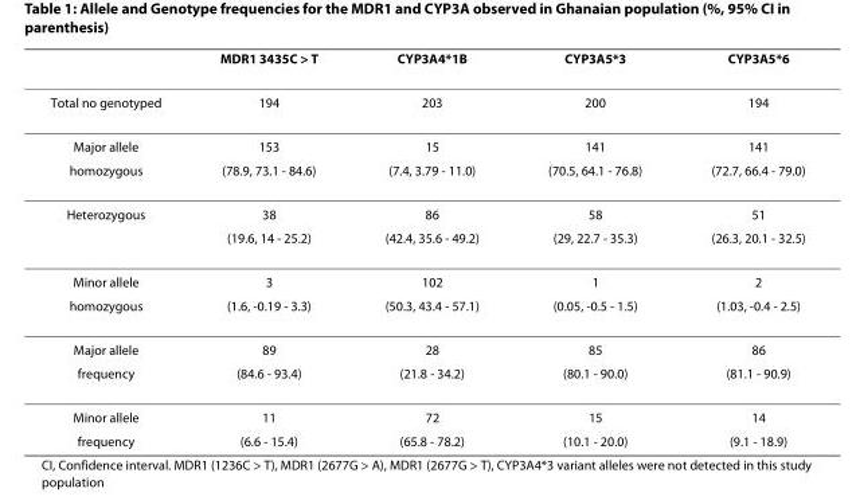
<table><thead><tr><td></td><td>MDR1 3435C &gt; T</td><td>CYP3A4*1B</td><td>CYP3A5*3</td><td>CYP3A5*6</td></tr></thead><tbody><tr><td>Total no genotyped</td><td>194</td><td>203</td><td>200</td><td>194</td></tr><tr><td>Major allele</td><td>153</td><td>15</td><td>141</td><td>141</td></tr><tr><td>homozygous</td><td>(78.9, 73.1 - 84.6)</td><td>(7.4, 3.79 - 11.0)</td><td>(70.5, 64.1 - 76.8)</td><td>(72.7, 66.4 - 79.0)</td></tr><tr><td rowspan="2">Heterozygous</td><td>38</td><td>86</td><td>58</td><td>51</td></tr><tr><td>(19.6, 14 - 25.2)</td><td>(42.4, 35.6 - 49.2)</td><td>(29, 22.7 - 35.3)</td><td>(26.3, 20.1 - 32.5)</td></tr><tr><td>Minor allele</td><td>3</td><td>102</td><td>1</td><td>2</td></tr><tr><td>homozygous</td><td>(1.6, -0.19 - 3.3)</td><td>(50.3, 43.4 - 57.1)</td><td>(0.05, -0.5 - 1.5)</td><td>(1.03, -0.4 - 2.5)</td></tr><tr><td>Major allele</td><td>89</td><td>28</td><td>85</td><td>86</td></tr><tr><td>frequency</td><td>(84.6 - 93.4)</td><td>(21.8 - 34.2)</td><td>(80.1 - 90.0)</td><td>(81.1 - 90.9)</td></tr><tr><td>Minor allele</td><td>11</td><td>72</td><td>15</td><td>14</td></tr><tr><td>frequency</td><td>(6.6 - 15.4)</td><td>(65.8 - 78.2)</td><td>(10.1 - 20.0)</td><td>(9.1 - 18.9)</td></tr></tbody></table>